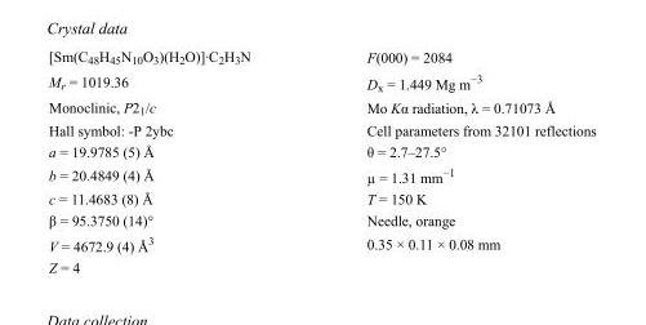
<table><tbody><tr><td>[Sm(C<sub>48</sub>H<sub>45</sub>N<sub>10</sub>O<sub>3</sub>)(H<sub>2</sub>O)]·C<sub>2</sub>H<sub>3</sub>N</td><td>F(000) = 2084</td></tr><tr><td>M<sub>r</sub> = 1019.36</td><td>D<sub>x</sub> = 1.449 Mg m<sup>−3</sup></td></tr><tr><td>Monoclinic, P2<sub>1</sub>/c</td><td>Mo Kα radiation, λ = 0.71073 Å</td></tr><tr><td>Hall symbol: -P 2ybc</td><td>Cell parameters from 32101 reflections</td></tr><tr><td>a = 19.9785 (5) Å</td><td>θ = 2.7–27.5°</td></tr><tr><td>b = 20.4849 (4) Å</td><td>µ = 1.31 mm<sup>−1</sup></td></tr><tr><td>c = 11.4683 (8) Å</td><td>T = 150 K</td></tr><tr><td>β = 95.3750 (14)°</td><td>Needle, orange</td></tr><tr><td>V = 4672.9 (4) Å<sup>3</sup></td><td>0.35 × 0.11 × 0.08 mm</td></tr><tr><td>Z = 4</td><td></td></tr></tbody></table>